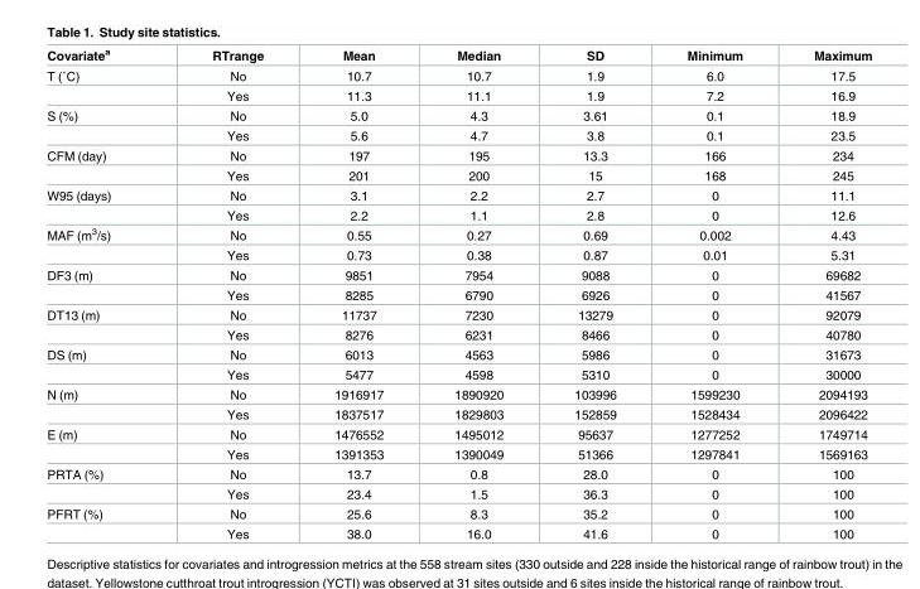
<table><thead><tr><td>Covariate<sup>a</sup></td><td>RTrange</td><td>Mean</td><td>Median</td><td>SD</td><td>Minimum</td><td>Maximum</td></tr></thead><tbody><tr><td rowspan="2">T (˚C)</td><td>No</td><td>10.7</td><td>10.7</td><td>1.9</td><td>6.0</td><td>17.5</td></tr><tr><td>Yes</td><td>11.3</td><td>11.1</td><td>1.9</td><td>7.2</td><td>16.9</td></tr><tr><td rowspan="2">S (%)</td><td>No</td><td>5.0</td><td>4.3</td><td>3.61</td><td>0.1</td><td>18.9</td></tr><tr><td>Yes</td><td>5.6</td><td>4.7</td><td>3.8</td><td>0.1</td><td>23.5</td></tr><tr><td rowspan="2">CFM (day)</td><td>No</td><td>197</td><td>195</td><td>13.3</td><td>166</td><td>234</td></tr><tr><td>Yes</td><td>201</td><td>200</td><td>15</td><td>168</td><td>245</td></tr><tr><td rowspan="2">W95 (days)</td><td>No</td><td>3.1</td><td>2.2</td><td>2.7</td><td>0</td><td>11.1</td></tr><tr><td>Yes</td><td>2.2</td><td>1.1</td><td>2.8</td><td>0</td><td>12.6</td></tr><tr><td rowspan="2">MAF (m<sup>3</sup>/s)</td><td>No</td><td>0.55</td><td>0.27</td><td>0.69</td><td>0.002</td><td>4.43</td></tr><tr><td>Yes</td><td>0.73</td><td>0.38</td><td>0.87</td><td>0.01</td><td>5.31</td></tr><tr><td rowspan="2">DF3 (m)</td><td>No</td><td>9851</td><td>7954</td><td>9088</td><td>0</td><td>69682</td></tr><tr><td>Yes</td><td>8285</td><td>6790</td><td>6926</td><td>0</td><td>41567</td></tr><tr><td rowspan="2">DT13 (m)</td><td>No</td><td>11737</td><td>7230</td><td>13279</td><td>0</td><td>92079</td></tr><tr><td>Yes</td><td>8276</td><td>6231</td><td>8466</td><td>0</td><td>40780</td></tr><tr><td rowspan="2">DS (m)</td><td>No</td><td>6013</td><td>4563</td><td>5986</td><td>0</td><td>31673</td></tr><tr><td>Yes</td><td>5477</td><td>4598</td><td>5310</td><td>0</td><td>30000</td></tr><tr><td rowspan="2">N (m)</td><td>No</td><td>1916917</td><td>1890920</td><td>103996</td><td>1599230</td><td>2094193</td></tr><tr><td>Yes</td><td>1837517</td><td>1829803</td><td>152859</td><td>1528434</td><td>2096422</td></tr><tr><td rowspan="2">E (m)</td><td>No</td><td>1476552</td><td>1495012</td><td>95637</td><td>1277252</td><td>1749714</td></tr><tr><td>Yes</td><td>1391353</td><td>1390049</td><td>51366</td><td>1297841</td><td>1569163</td></tr><tr><td rowspan="2">PRTA (%)</td><td>No</td><td>13.7</td><td>0.8</td><td>28.0</td><td>0</td><td>100</td></tr><tr><td>Yes</td><td>23.4</td><td>1.5</td><td>36.3</td><td>0</td><td>100</td></tr><tr><td rowspan="2">PFRT (%)</td><td>No</td><td>25.6</td><td>8.3</td><td>35.2</td><td>0</td><td>100</td></tr><tr><td>Yes</td><td>38.0</td><td>16.0</td><td>41.6</td><td>0</td><td>100</td></tr></tbody></table>